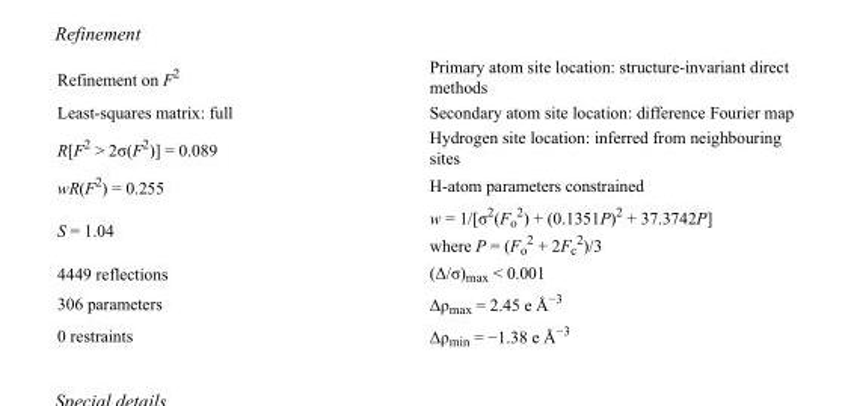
<table><tbody><tr><td>Refinement on F<sup>2</sup></td><td>Primary atom site location: structure-invariant direct methods</td></tr><tr><td>Least-squares matrix: full</td><td>Secondary atom site location: difference Fourier map</td></tr><tr><td>R[F<sup>2</sup> &gt; 2σ(F<sup>2</sup>)] = 0.089</td><td>Hydrogen site location: inferred from neighbouring sites</td></tr><tr><td>wR(F<sup>2</sup>) = 0.255</td><td>H-atom parameters constrained</td></tr><tr><td>S = 1.04</td><td>w = 1/[σ<sup>2</sup>(F<sub>o</sub> <sup>2</sup>) + (0.1351P)<sup>2</sup> + 37.3742P] where P = (F<sub>o</sub> <sup>2</sup> + 2F<sub>c</sub> <sup>2</sup>)/3</td></tr><tr><td>4449 reflections</td><td>(Δ/σ)<sub>max</sub> &lt; 0.001</td></tr><tr><td>306 parameters</td><td>Δρ<sub>max</sub> = 2.45 e Å<sup>−3</sup></td></tr><tr><td>0 restraints</td><td>Δρ<sub>min</sub> = −1.38 e Å<sup>−3</sup></td></tr></tbody></table>